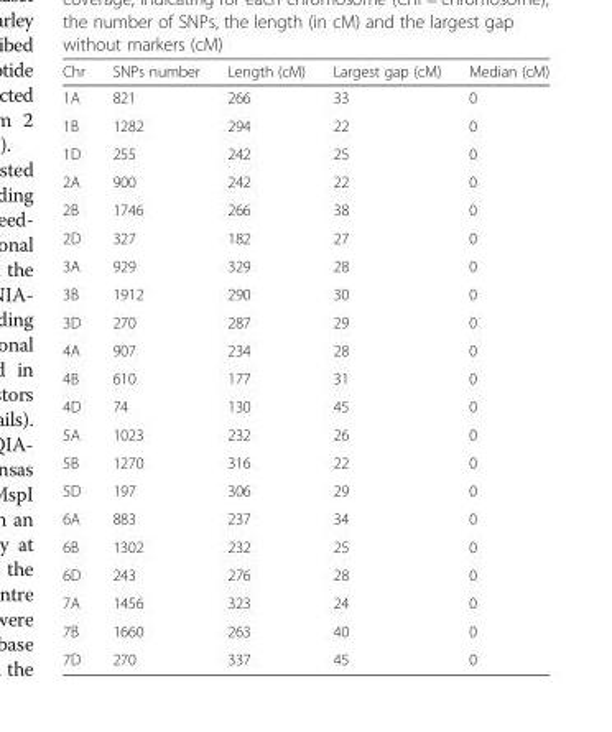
<table><thead><tr><td>Chr</td><td>SNPs number</td><td>Length (cM)</td><td>Largest gap (cM)</td><td>Median (cM)</td></tr></thead><tbody><tr><td>1A</td><td>821</td><td>266</td><td>33</td><td>0</td></tr><tr><td>1B</td><td>1282</td><td>294</td><td>22</td><td>0</td></tr><tr><td>1D</td><td>255</td><td>242</td><td>25</td><td>0</td></tr><tr><td>2A</td><td>900</td><td>242</td><td>22</td><td>0</td></tr><tr><td>2B</td><td>1746</td><td>266</td><td>38</td><td>0</td></tr><tr><td>2D</td><td>327</td><td>182</td><td>27</td><td>0</td></tr><tr><td>3A</td><td>929</td><td>329</td><td>28</td><td>0</td></tr><tr><td>3B</td><td>1912</td><td>290</td><td>30</td><td>0</td></tr><tr><td>3D</td><td>270</td><td>287</td><td>29</td><td>0</td></tr><tr><td>4A</td><td>907</td><td>234</td><td>28</td><td>0</td></tr><tr><td>4B</td><td>610</td><td>177</td><td>31</td><td>0</td></tr><tr><td>4D</td><td>74</td><td>130</td><td>45</td><td>0</td></tr><tr><td>5A</td><td>1023</td><td>232</td><td>26</td><td>0</td></tr><tr><td>5B</td><td>1270</td><td>316</td><td>22</td><td>0</td></tr><tr><td>5D</td><td>197</td><td>306</td><td>29</td><td>0</td></tr><tr><td>6A</td><td>883</td><td>237</td><td>34</td><td>0</td></tr><tr><td>6B</td><td>1302</td><td>232</td><td>25</td><td>0</td></tr><tr><td>6D</td><td>243</td><td>276</td><td>28</td><td>0</td></tr><tr><td>7A</td><td>1456</td><td>323</td><td>24</td><td>0</td></tr><tr><td>7B</td><td>1660</td><td>263</td><td>40</td><td>0</td></tr><tr><td>7D</td><td>270</td><td>337</td><td>45</td><td>0</td></tr></tbody></table>